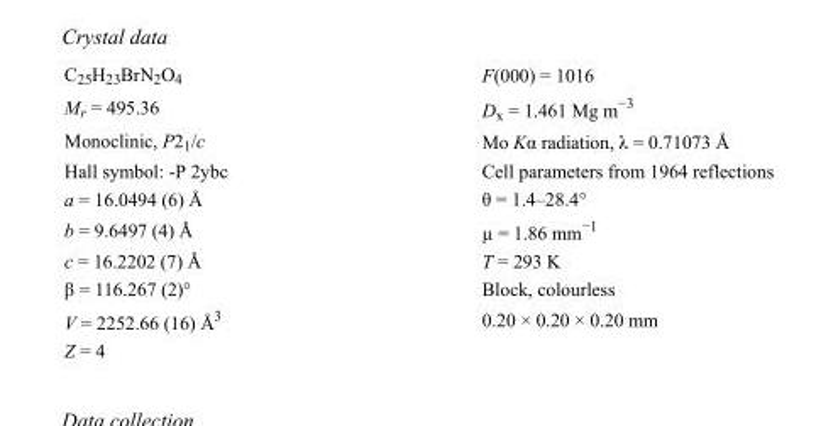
<table><tbody><tr><td>C<sub>25</sub>H<sub>23</sub>BrN<sub>2</sub>O<sub>4</sub></td><td>F(000) = 1016</td></tr><tr><td>M<sub>r</sub> = 495.36</td><td>D<sub>x</sub> = 1.461 Mg m<sup>−3</sup></td></tr><tr><td>Monoclinic, P2<sub>1</sub>/c</td><td>Mo Kα radiation, λ = 0.71073 Å</td></tr><tr><td>Hall symbol: -P 2ybc</td><td>Cell parameters from 1964 reflections</td></tr><tr><td>a = 16.0494 (6) Å</td><td>θ = 1.4–28.4°</td></tr><tr><td>b = 9.6497 (4) Å</td><td>µ = 1.86 mm<sup>−1</sup></td></tr><tr><td>c = 16.2202 (7) Å</td><td>T = 293 K</td></tr><tr><td>β = 116.267 (2)°</td><td>Block, colourless</td></tr><tr><td>V = 2252.66 (16) Å<sup>3</sup></td><td>0.20 × 0.20 × 0.20 mm</td></tr><tr><td>Z = 4</td><td></td></tr></tbody></table>